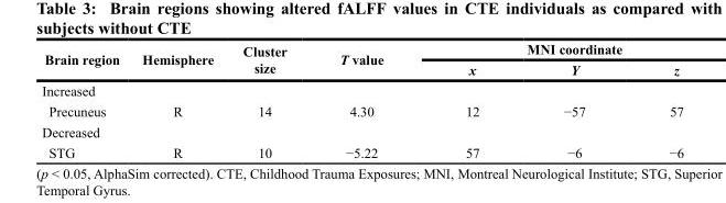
<table><thead><tr><td rowspan="2">Brain region</td><td rowspan="2">Hemisphere</td><td rowspan="2">Cluster size</td><td rowspan="2">T value</td><td colspan="3">MNI coordinate</td></tr><tr><td>x</td><td>Y</td><td>z</td></tr></thead><tbody><tr><td colspan="7">Increased</td></tr><tr><td>Precuneus</td><td>R</td><td>14</td><td>4.30</td><td>12</td><td>−57</td><td>57</td></tr><tr><td colspan="7">Decreased</td></tr><tr><td>STG</td><td>R</td><td>10</td><td>−5.22</td><td>57</td><td>−6</td><td>−6</td></tr></tbody></table>